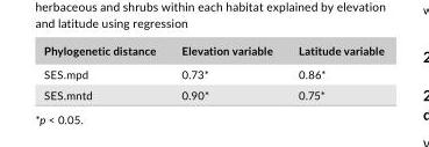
<table><thead><tr><td>Phylogenetic distance</td><td>Elevation variable</td><td>Latitude variable</td></tr></thead><tbody><tr><td>SES.mpd</td><td>0.73*</td><td>0.86*</td></tr><tr><td>SES.mntd</td><td>0.90*</td><td>0.75*</td></tr></tbody></table>